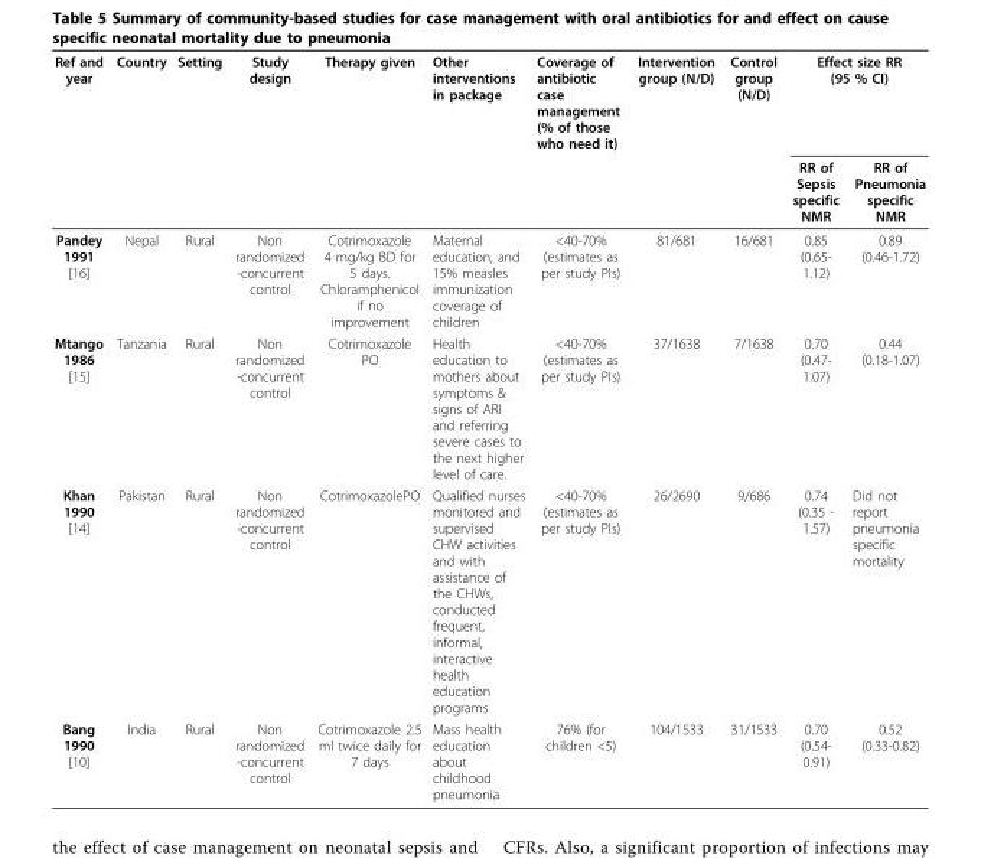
<table><thead><tr><td rowspan="2">Ref and year</td><td rowspan="2">Country</td><td rowspan="2">Setting</td><td rowspan="2">Study design</td><td rowspan="2">Therapy given</td><td rowspan="2">Other interventions in package</td><td rowspan="2">Coverage of antibiotic case management (% of those who need it)</td><td rowspan="2">Intervention group (N/D)</td><td rowspan="2">Control group (N/D)</td><td colspan="2">Effect size RR (95 % CI)</td></tr><tr><td>RR of Sepsis specific NMR</td><td>RR of Pneumonia specific NMR</td></tr></thead><tbody><tr><td>Pandey 1991 [16]</td><td>Nepal</td><td>Rural</td><td>Non randomized -concurrent control</td><td>Cotrimoxazole 4 mg/kg BD for 5 days. Chloramphenicol if no improvement</td><td>Maternal education, and 15% measles immunization coverage of children</td><td>&lt;40-70% (estimates as per study PIs)</td><td>81/681</td><td>16/681</td><td>0.85 (0.65- 1.12)</td><td>0.89 (0.46-1.72)</td></tr><tr><td>Mtango 1986 [15]</td><td>Tanzania</td><td>Rural</td><td>Non randomized -concurrent control</td><td>Cotrimoxazole PO</td><td>Health education to mothers about symptoms &amp; signs of ARI and referring severe cases to the next higher level of care.</td><td>&lt;40-70% (estimates as per study PIs)</td><td>37/1638</td><td>7/1638</td><td>0.70 (0.47- 1.07)</td><td>0.44 (0.18-1.07)</td></tr><tr><td>Khan 1990 [14]</td><td>Pakistan</td><td>Rural</td><td>Non randomized -concurrent control</td><td>CotrimoxazolePO</td><td>Qualified nurses monitored and supervised CHW activities and with assistance of the CHWs, conducted frequent, informal, interactive health education programs</td><td>&lt;40-70% (estimates as per study PIs)</td><td>26/2690</td><td>9/686</td><td>0.74 (0.35 - 1.57)</td><td>Did not report pneumonia specific mortality</td></tr><tr><td>Bang 1990 [10]</td><td>India</td><td>Rural</td><td>Non randomized -concurrent control</td><td>Cotrimoxazole 2.5 ml twice daily for 7 days</td><td>Mass health education about childhood pneumonia</td><td>76% (for children &lt;5)</td><td>104/1533</td><td>31/1533</td><td>0.70 (0.54- 0.91)</td><td>0.52 (0.33-0.82)</td></tr></tbody></table>